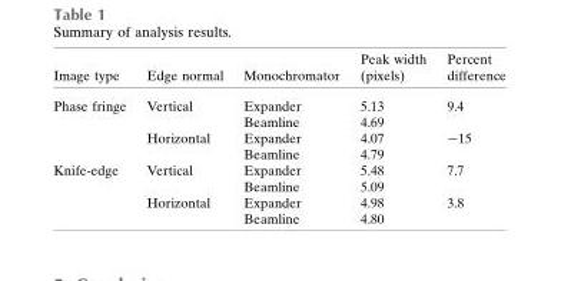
<table><thead><tr><td>Image type</td><td>Edge normal</td><td>Monochromator</td><td>Peak width (pixels)</td><td>Percent difference</td></tr></thead><tbody><tr><td rowspan="4">Phase fringe</td><td rowspan="2">Vertical</td><td>Expander</td><td>5.13</td><td rowspan="2">9.4</td></tr><tr><td>Beamline</td><td>4.69</td></tr><tr><td rowspan="2">Horizontal</td><td>Expander</td><td>4.07</td><td rowspan="2">�15</td></tr><tr><td>Beamline</td><td>4.79</td></tr><tr><td rowspan="4">Knife-edge</td><td rowspan="2">Vertical</td><td>Expander</td><td>5.48</td><td rowspan="2">7.7</td></tr><tr><td>Beamline</td><td>5.09</td></tr><tr><td rowspan="2">Horizontal</td><td>Expander</td><td>4.98</td><td rowspan="2">3.8</td></tr><tr><td>Beamline</td><td>4.80</td></tr></tbody></table>